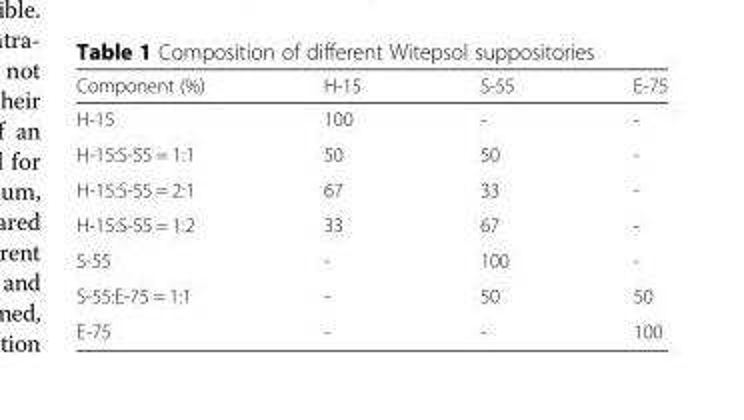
<table><thead><tr><td>Component (%)</td><td>H-15</td><td>S-55</td><td>E-75</td></tr></thead><tbody><tr><td>H-15</td><td>100</td><td>-</td><td>-</td></tr><tr><td>H-15:S-55 = 1:1</td><td>50</td><td>50</td><td>-</td></tr><tr><td>H-15:S-55 = 2:1</td><td>67</td><td>33</td><td>-</td></tr><tr><td>H-15:S-55 = 1:2</td><td>33</td><td>67</td><td>-</td></tr><tr><td>S-55</td><td>-</td><td>100</td><td>-</td></tr><tr><td>S-55:E-75 = 1:1</td><td>-</td><td>50</td><td>50</td></tr><tr><td>E-75</td><td>-</td><td>-</td><td>100</td></tr></tbody></table>